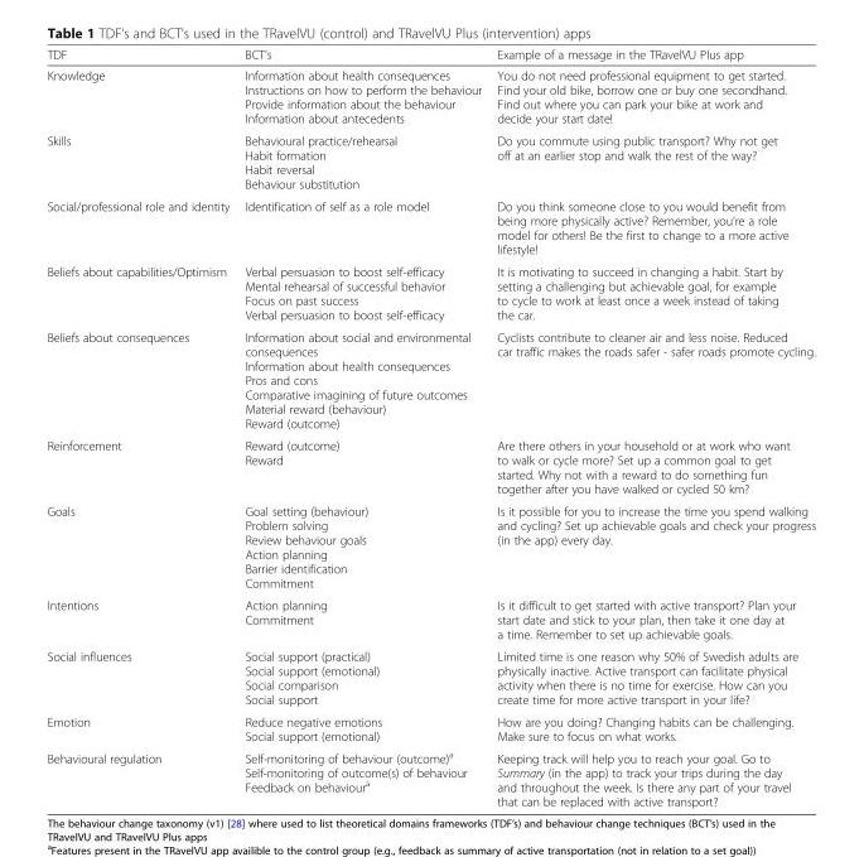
<table><thead><tr><td>TDF</td><td>BCT’s</td><td>Example of a message in the TRavelVU Plus app</td></tr></thead><tbody><tr><td>Knowledge</td><td>Information about health consequences Instructions on how to perform the behaviour Provide information about the behaviour Information about antecedents</td><td>You do not need professional equipment to get started. Find your old bike, borrow one or buy one secondhand. Find out where you can park your bike at work and decide your start date!</td></tr><tr><td>Skills</td><td>Behavioural practice/rehearsal Habit formation Habit reversal Behaviour substitution</td><td>Do you commute using public transport? Why not get off at an earlier stop and walk the rest of the way?</td></tr><tr><td>Social/professional role and identity</td><td>Identification of self as a role model</td><td>Do you think someone close to you would benefit from being more physically active? Remember, you’re a role model for others! Be the first to change to a more active lifestyle!</td></tr><tr><td>Beliefs about capabilities/Optimism</td><td>Verbal persuasion to boost self-efficacy Mental rehearsal of successful behavior Focus on past success Verbal persuasion to boost self-efficacy</td><td>It is motivating to succeed in changing a habit. Start by setting a challenging but achievable goal, for example to cycle to work at least once a week instead of taking the car.</td></tr><tr><td>Beliefs about consequences</td><td>Information about social and environmental consequences Information about health consequences Pros and cons Comparative imagining of future outcomes Material reward (behaviour) Reward (outcome)</td><td>Cyclists contribute to cleaner air and less noise. Reduced car traffic makes the roads safer - safer roads promote cycling.</td></tr><tr><td>Reinforcement</td><td>Reward (outcome) Reward</td><td>Are there others in your household or at work who want to walk or cycle more? Set up a common goal to get started. Why not with a reward to do something fun together after you have walked or cycled 50 km?</td></tr><tr><td>Goals</td><td>Goal setting (behaviour) Problem solving Review behaviour goals Action planning Barrier identification Commitment</td><td>Is it possible for you to increase the time you spend walking and cycling? Set up achievable goals and check your progress (in the app) every day.</td></tr><tr><td>Intentions</td><td>Action planning Commitment</td><td>Is it difficult to get started with active transport? Plan your start date and stick to your plan, then take it one day at a time. Remember to set up achievable goals.</td></tr><tr><td>Social influences</td><td>Social support (practical) Social support (emotional) Social comparison Social support</td><td>Limited time is one reason why 50% of Swedish adults are physically inactive. Active transport can facilitate physical activity when there is no time for exercise. How can you create time for more active transport in your life?</td></tr><tr><td>Emotion</td><td>Reduce negative emotions Social support (emotional)</td><td>How are you doing? Changing habits can be challenging. Make sure to focus on what works.</td></tr><tr><td>Behavioural regulation</td><td>Self-monitoring of behaviour (outcome)<sup>a</sup> Self-monitoring of outcome(s) of behaviour Feedback on behaviour<sup>a</sup></td><td>Keeping track will help you to reach your goal. Go to Summary (in the app) to track your trips during the day and throughout the week. Is there any part of your travel that can be replaced with active transport?</td></tr></tbody></table>